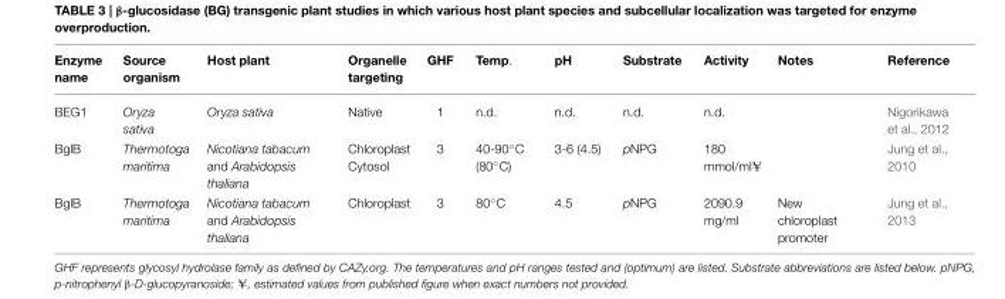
<table><thead><tr><td>Enzyme name</td><td>Source organism</td><td>Host plant</td><td>Organelle targeting</td><td>GHF</td><td>Temp.</td><td>pH</td><td>Substrate</td><td>Activity</td><td>Notes</td><td>Reference</td></tr></thead><tbody><tr><td>BEG1</td><td>Oryza sativa</td><td>Oryza sativa</td><td>Native</td><td>1</td><td>n.d.</td><td>n.d.</td><td>n.d.</td><td>n.d.</td><td></td><td>Nigorikawa et al., 2012</td></tr><tr><td>BglB</td><td>Thermotoga maritima</td><td>Nicotiana tabacum and Arabidopsis thaliana</td><td>Chloroplast Cytosol</td><td>3</td><td>40-90◦C (80◦C)</td><td>3-6 (4.5)</td><td>pNPG</td><td>180 mmol/ml¥</td><td></td><td>Jung et al., 2010</td></tr><tr><td>BglB</td><td>Thermotoga maritima</td><td>Nicotiana tabacum and Arabidopsis thaliana</td><td>Chloroplast</td><td>3</td><td>80◦C</td><td>4.5</td><td>pNPG</td><td>2090.9 mg/ml</td><td>New chloroplast promoter</td><td>Jung et al., 2013</td></tr></tbody></table>